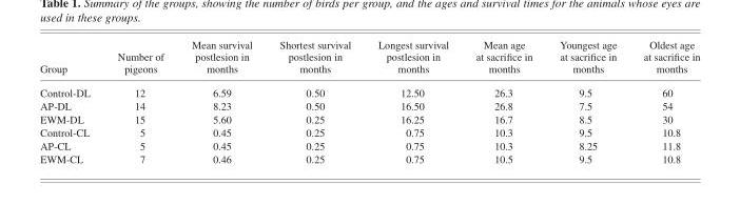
<table><thead><tr><td>Group</td><td>Number of pigeons</td><td>Mean survival postlesion in months</td><td>Shortest survival postlesion in months</td><td>Longest survival postlesion in months</td><td>Mean age at sacrifi ce in months</td><td>Youngest age at sacrifi ce in months</td><td>Oldest age at sacrifi ce in months</td></tr></thead><tbody><tr><td>Control-DL</td><td>12</td><td>6.59</td><td>0.50</td><td>12.50</td><td>26.3</td><td>9.5</td><td>60</td></tr><tr><td>AP-DL</td><td>14</td><td>8.23</td><td>0.50</td><td>16.50</td><td>26.8</td><td>7.5</td><td>54</td></tr><tr><td>EWM-DL</td><td>15</td><td>5.60</td><td>0.25</td><td>16.25</td><td>16.7</td><td>8.5</td><td>30</td></tr><tr><td>Control-CL</td><td>5</td><td>0.45</td><td>0.25</td><td>0.75</td><td>10.3</td><td>9.5</td><td>10.8</td></tr><tr><td>AP-CL</td><td>5</td><td>0.45</td><td>0.25</td><td>0.75</td><td>10.3</td><td>8.25</td><td>11.8</td></tr><tr><td>EWM-CL</td><td>7</td><td>0.46</td><td>0.25</td><td>0.75</td><td>10.5</td><td>9.5</td><td>10.8</td></tr></tbody></table>